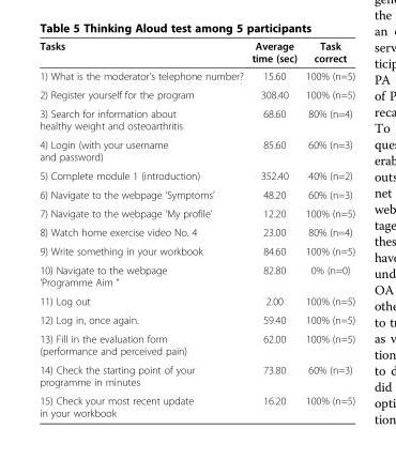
<table><thead><tr><td>Tasks</td><td>Average time (sec)</td><td>Task correct</td></tr></thead><tbody><tr><td>1) What is the moderator&#x27;s telephone number?</td><td>15.60</td><td>100% (n=5)</td></tr><tr><td>2) Register yourself for the program</td><td>308.40</td><td>100% (n=5)</td></tr><tr><td>3) Search for information about healthy weight and osteoarthritis</td><td>68.60</td><td>80% (n=4)</td></tr><tr><td>4) Login (with your username and password)</td><td>85.60</td><td>60% (n=3)</td></tr><tr><td>5) Complete module 1 (introduction)</td><td>352.40</td><td>40% (n=2)</td></tr><tr><td>6) Navigate to the webpage ‘Symptoms’</td><td>48.20</td><td>60% (n=3)</td></tr><tr><td>7) Navigate to the webpage ‘My profile’</td><td>12.20</td><td>100% (n=5)</td></tr><tr><td>8) Watch home exercise video No. 4</td><td>23.00</td><td>80% (n=4)</td></tr><tr><td>9) Write something in your workbook</td><td>84.60</td><td>100% (n=5)</td></tr><tr><td>10) Navigate to the webpage ‘Programme Aim ”</td><td>82.80</td><td>0% (n=0)</td></tr><tr><td>11) Log out</td><td>2.00</td><td>100% (n=5)</td></tr><tr><td>12) Log in, once again.</td><td>59.40</td><td>100% (n=5)</td></tr><tr><td>13) Fill in the evaluation form (performance and perceived pain)</td><td>62.00</td><td>100% (n=5)</td></tr><tr><td>14) Check the starting point of your programme in minutes</td><td>73.80</td><td>60% (n=3)</td></tr><tr><td>15) Check your most recent update in your workbook</td><td>16.20</td><td>100% (n=5)</td></tr></tbody></table>